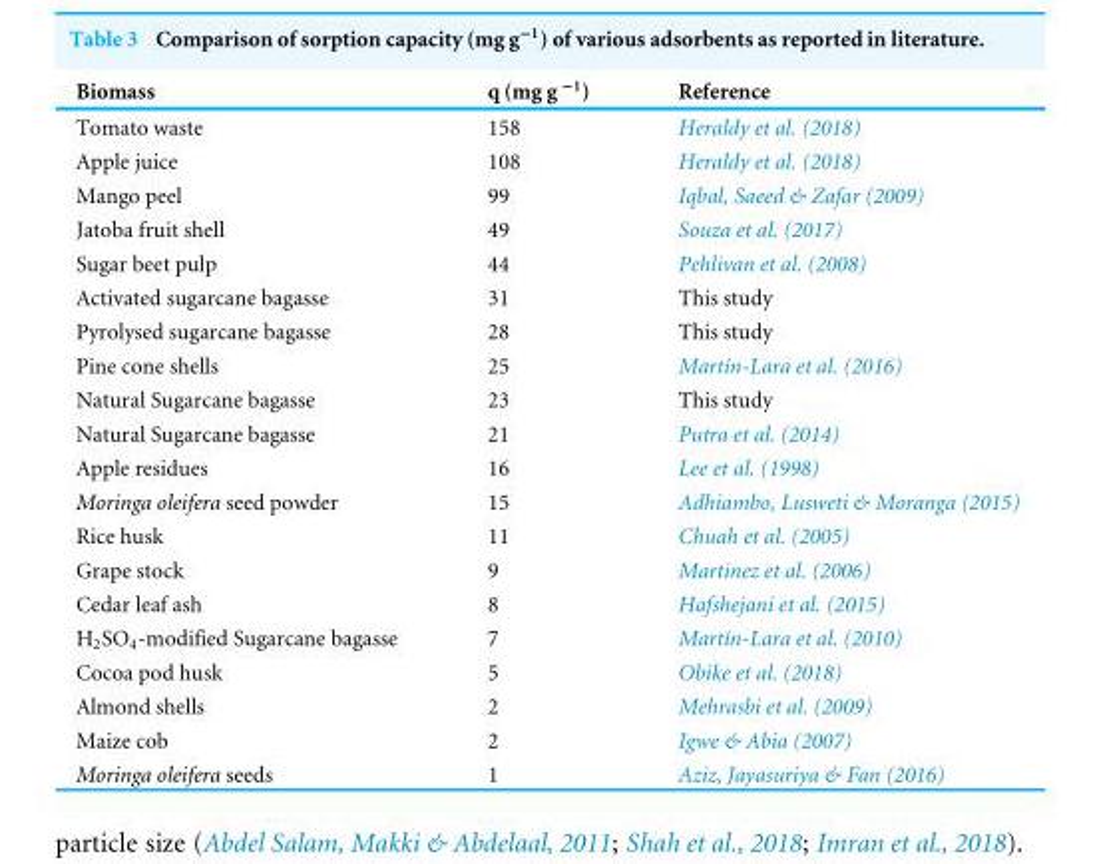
<table><thead><tr><td>Biomass</td><td>q (mg g <sup>−1</sup>)</td><td>Reference</td></tr></thead><tbody><tr><td>Tomato waste</td><td>158</td><td>Heraldy et al. (2018)</td></tr><tr><td>Apple juice</td><td>108</td><td>Heraldy et al. (2018)</td></tr><tr><td>Mango peel</td><td>99</td><td>Iqbal, Saeed &amp; Zafar (2009)</td></tr><tr><td>Jatoba fruit shell</td><td>49</td><td>Souza et al. (2017)</td></tr><tr><td>Sugar beet pulp</td><td>44</td><td>Pehlivan et al. (2008)</td></tr><tr><td>Activated sugarcane bagasse</td><td>31</td><td>This study</td></tr><tr><td>Pyrolysed sugarcane bagasse</td><td>28</td><td>This study</td></tr><tr><td>Pine cone shells</td><td>25</td><td>Martín-Lara et al. (2016)</td></tr><tr><td>Natural Sugarcane bagasse</td><td>23</td><td>This study</td></tr><tr><td>Natural Sugarcane bagasse</td><td>21</td><td>Putra et al. (2014)</td></tr><tr><td>Apple residues</td><td>16</td><td>Lee et al. (1998)</td></tr><tr><td>Moringa oleifera seed powder</td><td>15</td><td>Adhiambo, Lusweti &amp; Moranga (2015)</td></tr><tr><td>Rice husk</td><td>11</td><td>Chuah et al. (2005)</td></tr><tr><td>Grape stock</td><td>9</td><td>Martinez et al. (2006)</td></tr><tr><td>Cedar leaf ash</td><td>8</td><td>Hafshejani et al. (2015)</td></tr><tr><td>H<sub>2</sub>SO<sub>4</sub>-modified Sugarcane bagasse</td><td>7</td><td>Martín-Lara et al. (2010)</td></tr><tr><td>Cocoa pod husk</td><td>5</td><td>Obike et al. (2018)</td></tr><tr><td>Almond shells</td><td>2</td><td>Mehrasbi et al. (2009)</td></tr><tr><td>Maize cob</td><td>2</td><td>Igwe &amp; Abia (2007)</td></tr><tr><td>Moringa oleifera seeds</td><td>1</td><td>Aziz, Jayasuriya &amp; Fan (2016)</td></tr></tbody></table>